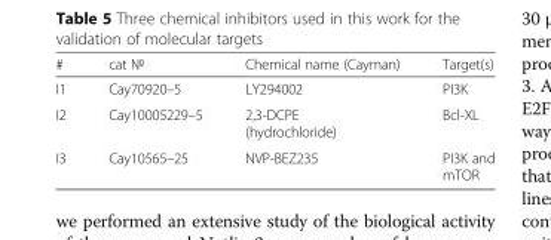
<table><thead><tr><td>#</td><td>cat №</td><td>Chemical name (Cayman)</td><td>Target(s)</td></tr></thead><tbody><tr><td>I1</td><td>Cay70920–5</td><td>LY294002</td><td>PI3K</td></tr><tr><td>I2</td><td>Cay10005229–5</td><td>2,3-DCPE (hydrochloride)</td><td>Bcl-XL</td></tr><tr><td>I3</td><td>Cay10565–25</td><td>NVP-BEZ235</td><td>PI3K and mTOR</td></tr></tbody></table>